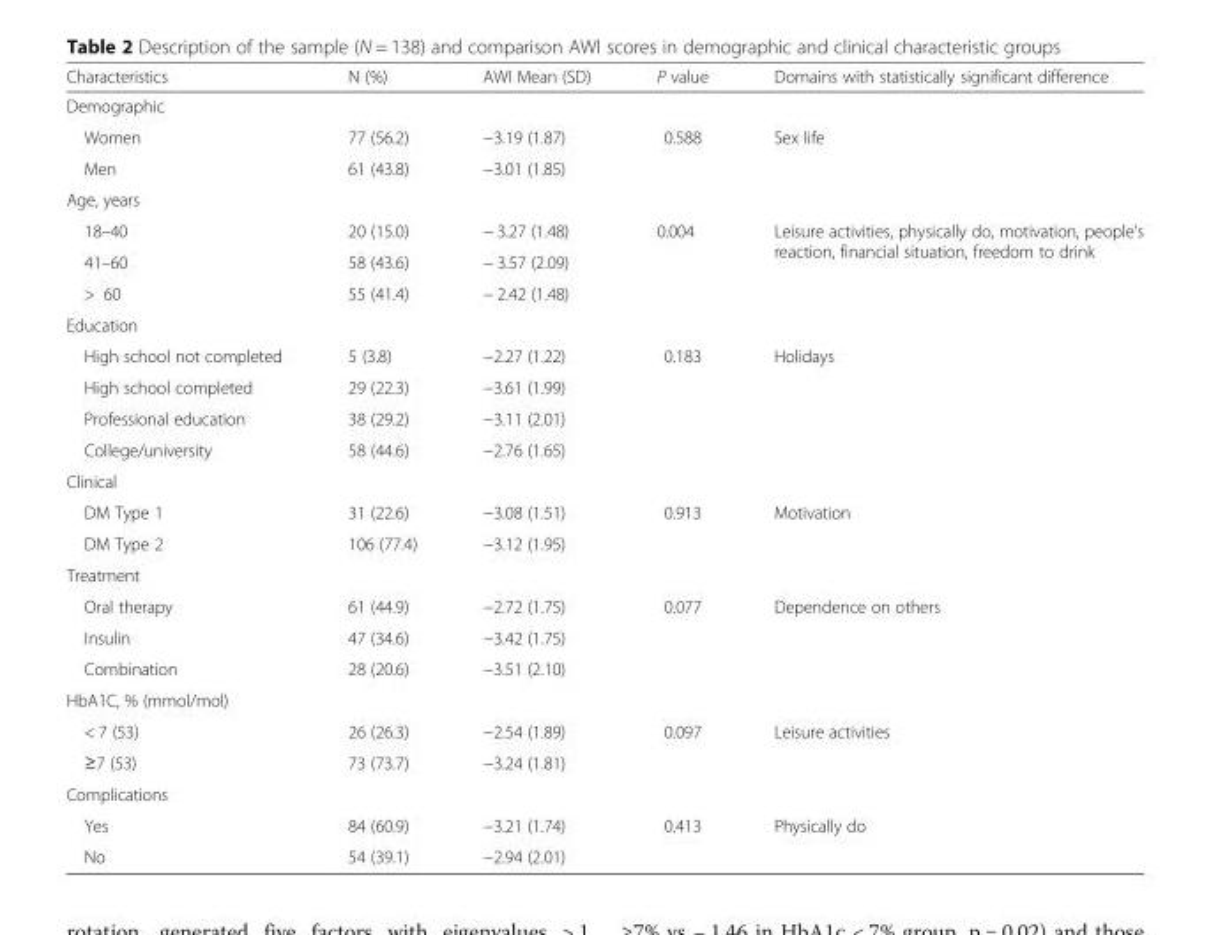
<table><thead><tr><td>Characteristics</td><td>N (%)</td><td>AWI Mean (SD)</td><td>P value</td><td>Domains with statistically significant difference</td></tr></thead><tbody><tr><td colspan="5">Demographic</td></tr><tr><td>Women</td><td>77 (56.2)</td><td>−3.19 (1.87)</td><td>0.588</td><td>Sex life</td></tr><tr><td>Men</td><td>61 (43.8)</td><td>−3.01 (1.85)</td><td></td><td></td></tr><tr><td colspan="5">Age, years</td></tr><tr><td>18–40</td><td>20 (15.0)</td><td>− 3.27 (1.48)</td><td>0.004</td><td rowspan="3">Leisure activities, physically do, motivation, people’s reaction, financial situation, freedom to drink</td></tr><tr><td>41–60</td><td>58 (43.6)</td><td>− 3.57 (2.09)</td><td></td></tr><tr><td>&gt; 60</td><td>55 (41.4)</td><td>− 2.42 (1.48)</td><td></td></tr><tr><td colspan="5">Education</td></tr><tr><td>High school not completed</td><td>5 (3.8)</td><td>−2.27 (1.22)</td><td>0.183</td><td>Holidays</td></tr><tr><td>High school completed</td><td>29 (22.3)</td><td>−3.61 (1.99)</td><td></td><td></td></tr><tr><td>Professional education</td><td>38 (29.2)</td><td>−3.11 (2.01)</td><td></td><td></td></tr><tr><td>College/university</td><td>58 (44.6)</td><td>−2.76 (1.65)</td><td></td><td></td></tr><tr><td colspan="5">Clinical</td></tr><tr><td>DM Type 1</td><td>31 (22.6)</td><td>−3.08 (1.51)</td><td>0.913</td><td>Motivation</td></tr><tr><td>DM Type 2</td><td>106 (77.4)</td><td>−3.12 (1.95)</td><td></td><td></td></tr><tr><td colspan="5">Treatment</td></tr><tr><td>Oral therapy</td><td>61 (44.9)</td><td>−2.72 (1.75)</td><td>0.077</td><td>Dependence on others</td></tr><tr><td>Insulin</td><td>47 (34.6)</td><td>−3.42 (1.75)</td><td></td><td></td></tr><tr><td>Combination</td><td>28 (20.6)</td><td>−3.51 (2.10)</td><td></td><td></td></tr><tr><td colspan="5">HbA1C, % (mmol/mol)</td></tr><tr><td>&lt; 7 (53)</td><td>26 (26.3)</td><td>−2.54 (1.89)</td><td>0.097</td><td>Leisure activities</td></tr><tr><td>≥7 (53)</td><td>73 (73.7)</td><td>−3.24 (1.81)</td><td></td><td></td></tr><tr><td colspan="5">Complications</td></tr><tr><td>Yes</td><td>84 (60.9)</td><td>−3.21 (1.74)</td><td>0.413</td><td>Physically do</td></tr><tr><td>No</td><td>54 (39.1)</td><td>−2.94 (2.01)</td><td></td><td></td></tr></tbody></table>